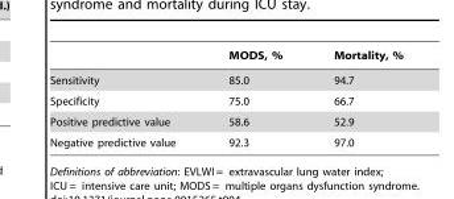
<table><thead><tr><td></td><td>MODS, %</td><td>Mortality, %</td></tr></thead><tbody><tr><td>Sensitivity</td><td>85.0</td><td>94.7</td></tr><tr><td>Specificity</td><td>75.0</td><td>66.7</td></tr><tr><td>Positive predictive value</td><td>58.6</td><td>52.9</td></tr><tr><td>Negative predictive value</td><td>92.3</td><td>97.0</td></tr></tbody></table>